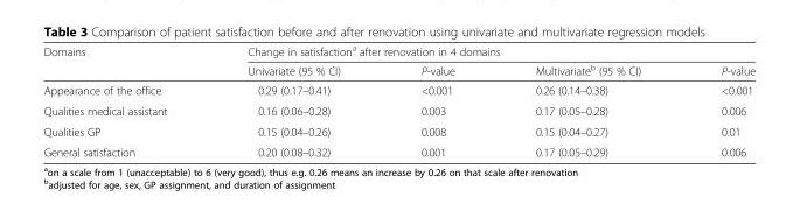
<table><thead><tr><td rowspan="2">Domains</td><td colspan="4">Change in satisfaction<sup>a</sup> after renovation in 4 domains</td></tr><tr><td>Univariate (95 % CI)</td><td>P-value</td><td>Multivariate<sup>b</sup> (95 % CI)</td><td>P-value</td></tr></thead><tbody><tr><td>Appearance of the office</td><td>0.29 (0.17–0.41)</td><td>&lt;0.001</td><td>0.26 (0.14–0.38)</td><td>&lt;0.001</td></tr><tr><td>Qualities medical assistant</td><td>0.16 (0.06–0.28)</td><td>0.003</td><td>0.17 (0.05–0.28)</td><td>0.006</td></tr><tr><td>Qualities GP</td><td>0.15 (0.04–0.26)</td><td>0.008</td><td>0.15 (0.04–0.27)</td><td>0.01</td></tr><tr><td>General satisfaction</td><td>0.20 (0.08–0.32)</td><td>0.001</td><td>0.17 (0.05–0.29)</td><td>0.006</td></tr></tbody></table>